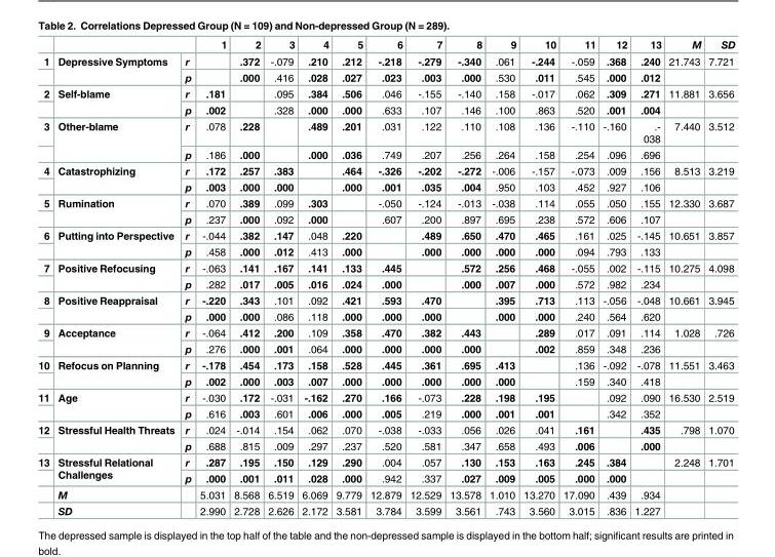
<table><thead><tr><td></td><td></td><td></td><td>1</td><td>2</td><td>3</td><td>4</td><td>5</td><td>6</td><td>7</td><td>8</td><td>9</td><td>10</td><td>11</td><td>12</td><td>13</td><td>M</td><td>SD</td></tr></thead><tbody><tr><td rowspan="2">1</td><td rowspan="2">Depressive Symptoms</td><td>r</td><td></td><td>.372</td><td>-.079</td><td>.210</td><td>.212</td><td>-.218</td><td>-.279</td><td>-.340</td><td>.061</td><td>-.244</td><td>-.059</td><td>.368</td><td>.240</td><td>21.743</td><td>7.721</td></tr><tr><td>p</td><td></td><td>.000</td><td>.416</td><td>.028</td><td>.027</td><td>.023</td><td>.003</td><td>.000</td><td>.530</td><td>.011</td><td>.545</td><td>.000</td><td>.012</td><td></td><td></td></tr><tr><td rowspan="2">2</td><td rowspan="2">Self-blame</td><td>r</td><td>.181</td><td></td><td>.095</td><td>.384</td><td>.506</td><td>.046</td><td>-.155</td><td>-.140</td><td>.158</td><td>-.017</td><td>.062</td><td>.309</td><td>.271</td><td>11.881</td><td>3.656</td></tr><tr><td>p</td><td>.002</td><td></td><td>.328</td><td>.000</td><td>.000</td><td>.633</td><td>.107</td><td>.146</td><td>.100</td><td>.863</td><td>.520</td><td>.001</td><td>.004</td><td></td><td></td></tr><tr><td rowspan="2">3</td><td rowspan="2">Other-blame</td><td>r</td><td>.078</td><td>.228</td><td></td><td>.489</td><td>.201</td><td>.031</td><td>.122</td><td>.110</td><td>.108</td><td>.136</td><td>-.110</td><td>-.160</td><td>.- 038</td><td>7.440</td><td>3.512</td></tr><tr><td>p</td><td>.186</td><td>.000</td><td></td><td>.000</td><td>.036</td><td>.749</td><td>.207</td><td>.256</td><td>.264</td><td>.158</td><td>.254</td><td>.096</td><td>.696</td><td></td><td></td></tr><tr><td rowspan="2">4</td><td rowspan="2">Catastrophizing</td><td>r</td><td>.172</td><td>.257</td><td>.383</td><td></td><td>.464</td><td>-.326</td><td>-.202</td><td>-.272</td><td>-.006</td><td>-.157</td><td>-.073</td><td>.009</td><td>.156</td><td>8.513</td><td>3.219</td></tr><tr><td>p</td><td>.003</td><td>.000</td><td>.000</td><td></td><td>.000</td><td>.001</td><td>.035</td><td>.004</td><td>.950</td><td>.103</td><td>.452</td><td>.927</td><td>.106</td><td></td><td></td></tr><tr><td rowspan="2">5</td><td rowspan="2">Rumination</td><td>r</td><td>.070</td><td>.389</td><td>.099</td><td>.303</td><td></td><td>-.050</td><td>-.124</td><td>-.013</td><td>-.038</td><td>.114</td><td>.055</td><td>.050</td><td>.155</td><td>12.330</td><td>3.687</td></tr><tr><td>p</td><td>.237</td><td>.000</td><td>.092</td><td>.000</td><td></td><td>.607</td><td>.200</td><td>.897</td><td>.695</td><td>.238</td><td>.572</td><td>.606</td><td>.107</td><td></td><td></td></tr><tr><td rowspan="2">6</td><td rowspan="2">Putting into Perspective</td><td>r</td><td>-.044</td><td>.382</td><td>.147</td><td>.048</td><td>.220</td><td></td><td>.489</td><td>.650</td><td>.470</td><td>.465</td><td>.161</td><td>.025</td><td>-.145</td><td>10.651</td><td>3.857</td></tr><tr><td>p</td><td>.458</td><td>.000</td><td>.012</td><td>.413</td><td>.000</td><td></td><td>.000</td><td>.000</td><td>.000</td><td>.000</td><td>.094</td><td>.793</td><td>.133</td><td></td><td></td></tr><tr><td rowspan="2">7</td><td rowspan="2">Positive Refocusing</td><td>r</td><td>-.063</td><td>.141</td><td>.167</td><td>.141</td><td>.133</td><td>.445</td><td></td><td>.572</td><td>.256</td><td>.468</td><td>-.055</td><td>.002</td><td>-.115</td><td>10.275</td><td>4.098</td></tr><tr><td>p</td><td>.282</td><td>.017</td><td>.005</td><td>.016</td><td>.024</td><td>.000</td><td></td><td>.000</td><td>.007</td><td>.000</td><td>.572</td><td>.982</td><td>.234</td><td></td><td></td></tr><tr><td rowspan="2">8</td><td rowspan="2">Positive Reappraisal</td><td>r</td><td>-.220</td><td>.343</td><td>.101</td><td>.092</td><td>.421</td><td>.593</td><td>.470</td><td></td><td>.395</td><td>.713</td><td>.113</td><td>-.056</td><td>-.048</td><td>10.661</td><td>3.945</td></tr><tr><td>p</td><td>.000</td><td>.000</td><td>.086</td><td>.118</td><td>.000</td><td>.000</td><td>.000</td><td></td><td>.000</td><td>.000</td><td>.240</td><td>.564</td><td>.620</td><td></td><td></td></tr><tr><td rowspan="2">9</td><td rowspan="2">Acceptance</td><td>r</td><td>-.064</td><td>.412</td><td>.200</td><td>.109</td><td>.358</td><td>.470</td><td>.382</td><td>.443</td><td></td><td>.289</td><td>.017</td><td>.091</td><td>.114</td><td>1.028</td><td>.726</td></tr><tr><td>p</td><td>.276</td><td>.000</td><td>.001</td><td>.064</td><td>.000</td><td>.000</td><td>.000</td><td>.000</td><td></td><td>.002</td><td>.859</td><td>.348</td><td>.236</td><td></td><td></td></tr><tr><td rowspan="2">10</td><td rowspan="2">Refocus on Planning</td><td>r</td><td>-.178</td><td>.454</td><td>.173</td><td>.158</td><td>.528</td><td>.445</td><td>.361</td><td>.695</td><td>.413</td><td></td><td>.136</td><td>-.092</td><td>-.078</td><td>11.551</td><td>3.463</td></tr><tr><td>p</td><td>.002</td><td>.000</td><td>.003</td><td>.007</td><td>.000</td><td>.000</td><td>.000</td><td>.000</td><td>.000</td><td></td><td>.159</td><td>.340</td><td>.418</td><td></td><td></td></tr><tr><td rowspan="2">11</td><td rowspan="2">Age</td><td>r</td><td>-.030</td><td>.172</td><td>-.031</td><td>-.162</td><td>.270</td><td>.166</td><td>-.073</td><td>.228</td><td>.198</td><td>.195</td><td></td><td>.092</td><td>.090</td><td>16.530</td><td>2.519</td></tr><tr><td>p</td><td>.616</td><td>.003</td><td>.601</td><td>.006</td><td>.000</td><td>.005</td><td>.219</td><td>.000</td><td>.001</td><td>.001</td><td></td><td>.342</td><td>.352</td><td></td><td></td></tr><tr><td rowspan="2">12</td><td rowspan="2">Stressful Health Threats</td><td>r</td><td>.024</td><td>-.014</td><td>.154</td><td>.062</td><td>.070</td><td>-.038</td><td>-.033</td><td>.056</td><td>.026</td><td>.041</td><td>.161</td><td></td><td>.435</td><td>.798</td><td>1.070</td></tr><tr><td>p</td><td>.688</td><td>.815</td><td>.009</td><td>.297</td><td>.237</td><td>.520</td><td>.581</td><td>.347</td><td>.658</td><td>.493</td><td>.006</td><td></td><td>.000</td><td></td><td></td></tr><tr><td rowspan="4">13</td><td rowspan="2">Stressful Relational Challenges</td><td>r</td><td>.287</td><td>.195</td><td>.150</td><td>.129</td><td>.290</td><td>.004</td><td>.057</td><td>.130</td><td>.153</td><td>.163</td><td>.245</td><td>.384</td><td></td><td>2.248</td><td>1.701</td></tr><tr><td>p</td><td>.000</td><td>.001</td><td>.011</td><td>.028</td><td>.000</td><td>.942</td><td>.337</td><td>.027</td><td>.009</td><td>.005</td><td>.000</td><td>.000</td><td></td><td></td><td></td></tr><tr><td>M</td><td></td><td>5.031</td><td>8.568</td><td>6.519</td><td>6.069</td><td>9.779</td><td>12.879</td><td>12.529</td><td>13.578</td><td>1.010</td><td>13.270</td><td>17.090</td><td>.439</td><td>.934</td><td></td><td></td></tr><tr><td>SD</td><td></td><td>2.990</td><td>2.728</td><td>2.626</td><td>2.172</td><td>3.581</td><td>3.784</td><td>3.599</td><td>3.561</td><td>.743</td><td>3.560</td><td>3.015</td><td>.836</td><td>1.227</td><td></td><td></td></tr></tbody></table>